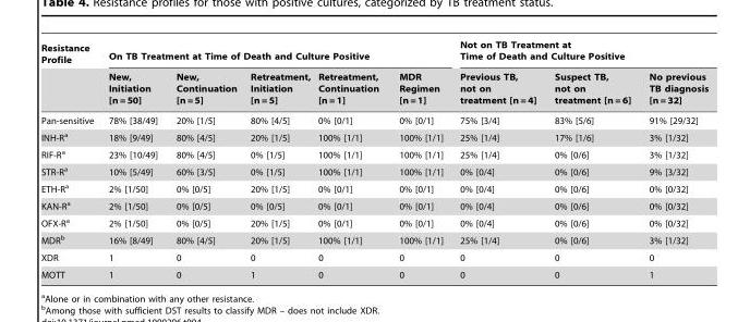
<table><thead><tr><td rowspan="2">Resistance Profile</td><td colspan="5">On TB Treatment at Time of Death and Culture Positive</td><td colspan="3">Not on TB Treatment at Time of Death and Culture Positive</td></tr><tr><td>New, Initiation [n = 50]</td><td>New, Continuation [n = 5]</td><td>Retreatment, Initiation [n = 5]</td><td>Retreatment, Continuation [n = 1]</td><td>MDR Regimen [n = 1]</td><td>Previous TB, not on treatment [n = 4]</td><td>Suspect TB, not on treatment [n = 6]</td><td>No previous TB diagnosis [n = 32]</td></tr></thead><tbody><tr><td>Pan-sensitive</td><td>78% [38/49]</td><td>20% [1/5]</td><td>80% [4/5]</td><td>0% [0/1]</td><td>0% [0/1]</td><td>75% [3/4]</td><td>83% [5/6]</td><td>91% [29/32]</td></tr><tr><td>INH-R<sup>a</sup></td><td>18% [9/49]</td><td>80% [4/5]</td><td>20% [1/5]</td><td>100% [1/1]</td><td>100% [1/1]</td><td>25% [1/4]</td><td>17% [1/6]</td><td>3% [1/32]</td></tr><tr><td>RIF-R<sup>a</sup></td><td>23% [10/49]</td><td>80% [4/5]</td><td>0% [1/5]</td><td>100% [1/1]</td><td>100% [1/1]</td><td>25% [1/4]</td><td>0% [0/6]</td><td>3% [1/32]</td></tr><tr><td>STR-R<sup>a</sup></td><td>10% [5/49]</td><td>60% [3/5]</td><td>0% [1/5]</td><td>100% [1/1]</td><td>100% [1/1]</td><td>0% [0/4]</td><td>0% [0/6]</td><td>9% [3/32]</td></tr><tr><td>ETH-R<sup>a</sup></td><td>2% [1/50]</td><td>0% [0/5]</td><td>20% [1/5]</td><td>0% [0/1]</td><td>0% [0/1]</td><td>0% [0/4]</td><td>0% [0/6]</td><td>0% [0/32]</td></tr><tr><td>KAN-R<sup>a</sup></td><td>2% [1/50]</td><td>0% [0/5]</td><td>0% [0/5]</td><td>0% [0/1]</td><td>0% [0/1]</td><td>0% [0/4]</td><td>0% [0/6]</td><td>0% [0/32]</td></tr><tr><td>OFX-R<sup>a</sup></td><td>2% [1/50]</td><td>0% [0/5]</td><td>20% [1/5]</td><td>0% [0/1]</td><td>0% [0/1]</td><td>0% [0/4]</td><td>0% [0/6]</td><td>0% [0/32]</td></tr><tr><td>MDR<sup>b</sup></td><td>16% [8/49]</td><td>80% [4/5]</td><td>20% [1/5]</td><td>100% [1/1]</td><td>100% [1/1]</td><td>25% [1/4]</td><td>0% [0/6]</td><td>3% [1/32]</td></tr><tr><td>XDR</td><td>1</td><td>0</td><td>0</td><td>0</td><td>0</td><td>0</td><td>0</td><td>0</td></tr><tr><td>MOTT</td><td>1</td><td>0</td><td>1</td><td>0</td><td>0</td><td>0</td><td>0</td><td>1</td></tr></tbody></table>